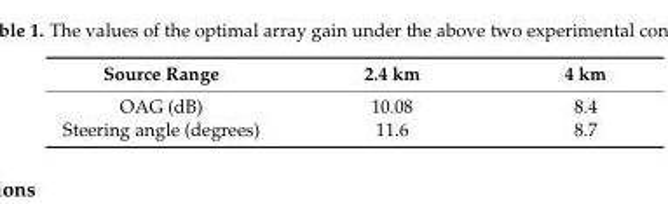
<table><thead><tr><td>Source Range</td><td>2.4 km</td><td>4 km</td></tr></thead><tbody><tr><td>OAG (dB)</td><td>10.08</td><td>8.4</td></tr><tr><td>Steering angle (degrees)</td><td>11.6</td><td>8.7</td></tr></tbody></table>